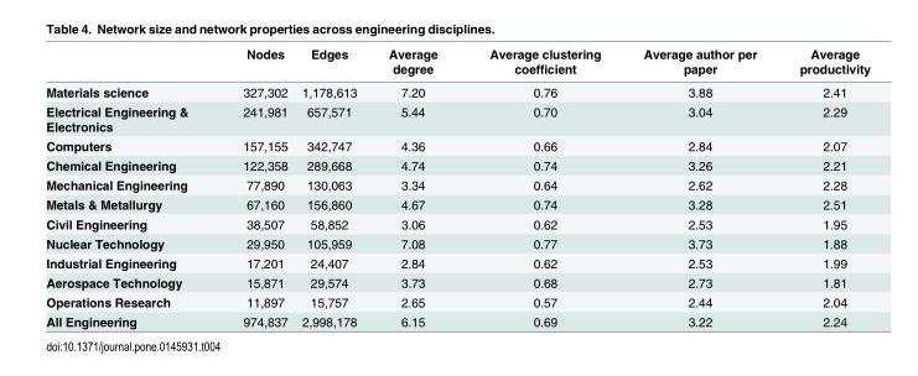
<table><thead><tr><td></td><td>Nodes</td><td>Edges</td><td>Average degree</td><td>Average clustering coefficient</td><td>Average author per paper</td><td>Average productivity</td></tr></thead><tbody><tr><td>Materials science</td><td>327,302</td><td>1,178,613</td><td>7.20</td><td>0.76</td><td>3.88</td><td>2.41</td></tr><tr><td>Electrical Engineering &amp; Electronics</td><td>241,981</td><td>657,571</td><td>5.44</td><td>0.70</td><td>3.04</td><td>2.29</td></tr><tr><td>Computers</td><td>157,155</td><td>342,747</td><td>4.36</td><td>0.66</td><td>2.84</td><td>2.07</td></tr><tr><td>Chemical Engineering</td><td>122,358</td><td>289,668</td><td>4.74</td><td>0.74</td><td>3.26</td><td>2.21</td></tr><tr><td>Mechanical Engineering</td><td>77,890</td><td>130,063</td><td>3.34</td><td>0.64</td><td>2.62</td><td>2.28</td></tr><tr><td>Metals &amp; Metallurgy</td><td>67,160</td><td>156,860</td><td>4.67</td><td>0.74</td><td>3.28</td><td>2.51</td></tr><tr><td>Civil Engineering</td><td>38,507</td><td>58,852</td><td>3.06</td><td>0.62</td><td>2.53</td><td>1.95</td></tr><tr><td>Nuclear Technology</td><td>29,950</td><td>105,959</td><td>7.08</td><td>0.77</td><td>3.73</td><td>1.88</td></tr><tr><td>Industrial Engineering</td><td>17,201</td><td>24,407</td><td>2.84</td><td>0.62</td><td>2.53</td><td>1.99</td></tr><tr><td>Aerospace Technology</td><td>15,871</td><td>29,574</td><td>3.73</td><td>0.68</td><td>2.73</td><td>1.81</td></tr><tr><td>Operations Research</td><td>11,897</td><td>15,757</td><td>2.65</td><td>0.57</td><td>2.44</td><td>2.04</td></tr><tr><td>All Engineering</td><td>974,837</td><td>2,998,178</td><td>6.15</td><td>0.69</td><td>3.22</td><td>2.24</td></tr></tbody></table>